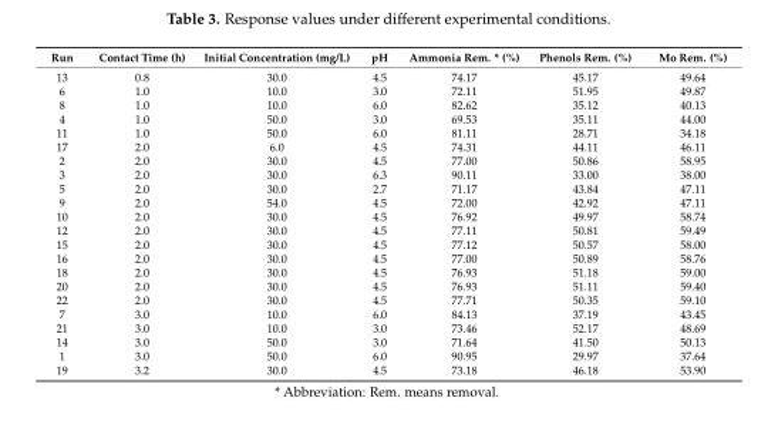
<table><thead><tr><td>Run</td><td>Contact Time (h)</td><td>Initial Concentration (mg/L)</td><td>pH</td><td>Ammonia Rem. * (%)</td><td>Phenols Rem. (%)</td><td>Mo Rem. (%)</td></tr></thead><tbody><tr><td>13</td><td>0.8</td><td>30.0</td><td>4.5</td><td>74.17</td><td>45.17</td><td>49.64</td></tr><tr><td>6</td><td>1.0</td><td>10.0</td><td>3.0</td><td>72.11</td><td>51.95</td><td>49.87</td></tr><tr><td>8</td><td>1.0</td><td>10.0</td><td>6.0</td><td>82.62</td><td>35.12</td><td>40.13</td></tr><tr><td>4</td><td>1.0</td><td>50.0</td><td>3.0</td><td>69.53</td><td>35.11</td><td>44.00</td></tr><tr><td>11</td><td>1.0</td><td>50.0</td><td>6.0</td><td>81.11</td><td>28.71</td><td>34.18</td></tr><tr><td>17</td><td>2.0</td><td>6.0</td><td>4.5</td><td>74.31</td><td>44.11</td><td>46.11</td></tr><tr><td>2</td><td>2.0</td><td>30.0</td><td>4.5</td><td>77.00</td><td>50.86</td><td>58.95</td></tr><tr><td>3</td><td>2.0</td><td>30.0</td><td>6.3</td><td>90.11</td><td>33.00</td><td>38.00</td></tr><tr><td>5</td><td>2.0</td><td>30.0</td><td>2.7</td><td>71.17</td><td>43.84</td><td>47.11</td></tr><tr><td>9</td><td>2.0</td><td>54.0</td><td>4.5</td><td>72.00</td><td>42.92</td><td>47.11</td></tr><tr><td>10</td><td>2.0</td><td>30.0</td><td>4.5</td><td>76.92</td><td>49.97</td><td>58.74</td></tr><tr><td>12</td><td>2.0</td><td>30.0</td><td>4.5</td><td>77.11</td><td>50.81</td><td>59.49</td></tr><tr><td>15</td><td>2.0</td><td>30.0</td><td>4.5</td><td>77.12</td><td>50.57</td><td>58.00</td></tr><tr><td>16</td><td>2.0</td><td>30.0</td><td>4.5</td><td>77.00</td><td>50.89</td><td>58.76</td></tr><tr><td>18</td><td>2.0</td><td>30.0</td><td>4.5</td><td>76.93</td><td>51.18</td><td>59.00</td></tr><tr><td>20</td><td>2.0</td><td>30.0</td><td>4.5</td><td>76.93</td><td>51.11</td><td>59.40</td></tr><tr><td>22</td><td>2.0</td><td>30.0</td><td>4.5</td><td>77.71</td><td>50.35</td><td>59.10</td></tr><tr><td>7</td><td>3.0</td><td>10.0</td><td>6.0</td><td>84.13</td><td>37.19</td><td>43.45</td></tr><tr><td>21</td><td>3.0</td><td>10.0</td><td>3.0</td><td>73.46</td><td>52.17</td><td>48.69</td></tr><tr><td>14</td><td>3.0</td><td>50.0</td><td>3.0</td><td>71.64</td><td>41.50</td><td>50.13</td></tr><tr><td>1</td><td>3.0</td><td>50.0</td><td>6.0</td><td>90.95</td><td>29.97</td><td>37.64</td></tr><tr><td>19</td><td>3.2</td><td>30.0</td><td>4.5</td><td>73.18</td><td>46.18</td><td>53.90</td></tr></tbody></table>